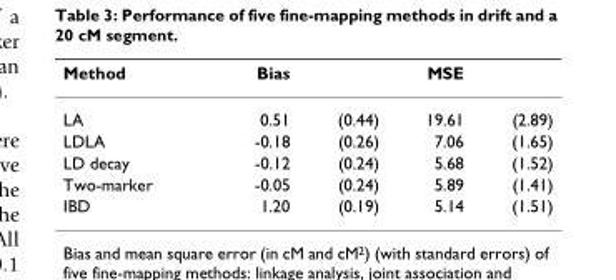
<table><thead><tr><td>Method</td><td>Bias</td><td></td><td>MSE</td><td></td></tr></thead><tbody><tr><td>LA</td><td>0.51</td><td>(0.44)</td><td>19.61</td><td>(2.89)</td></tr><tr><td>LDLA</td><td>-0.18</td><td>(0.26)</td><td>7.06</td><td>(1.65)</td></tr><tr><td>LD decay</td><td>-0.12</td><td>(0.24)</td><td>5.68</td><td>(1.52)</td></tr><tr><td>Two-marker</td><td>-0.05</td><td>(0.24)</td><td>5.89</td><td>(1.41)</td></tr><tr><td>IBD</td><td>1.20</td><td>(0.19)</td><td>5.14</td><td>(1.51)</td></tr></tbody></table>